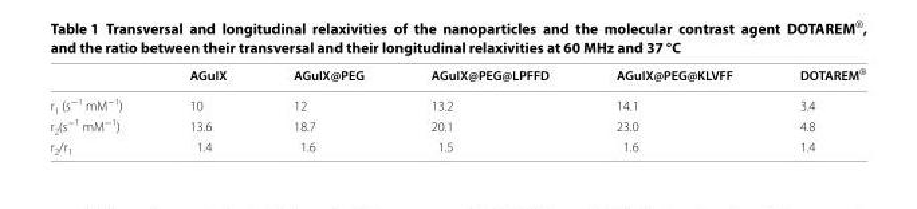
<table><thead><tr><td></td><td>AGuIX</td><td>AGuIX@PEG</td><td>AGuIX@PEG@LPFFD</td><td>AGuIX@PEG@KLVFF</td><td>DOTAREM<sup>®</sup></td></tr></thead><tbody><tr><td>r<sub>1</sub> (s<sup>−1</sup> mM<sup>−1</sup>)</td><td>10</td><td>12</td><td>13.2</td><td>14.1</td><td>3.4</td></tr><tr><td>r<sub>2</sub>(s<sup>−1</sup> mM<sup>−1</sup>)</td><td>13.6</td><td>18.7</td><td>20.1</td><td>23.0</td><td>4.8</td></tr><tr><td>r<sub>2</sub>/r<sub>1</sub></td><td>1.4</td><td>1.6</td><td>1.5</td><td>1.6</td><td>1.4</td></tr></tbody></table>